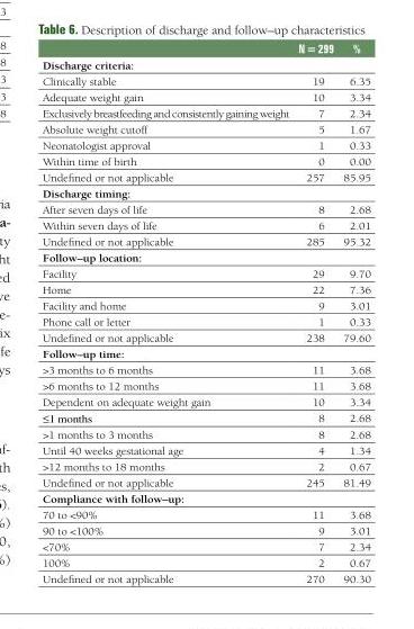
<table><thead><tr><td></td><td>N = 299</td><td>%</td></tr></thead><tbody><tr><td colspan="3">Discharge criteria:</td></tr><tr><td>Clinically stable</td><td>19</td><td>6.35</td></tr><tr><td>Adequate weight gain</td><td>10</td><td>3.34</td></tr><tr><td>Exclusively breastfeeding and consistently gaining weight</td><td>7</td><td>2.34</td></tr><tr><td>Absolute weight cutoff</td><td>5</td><td>1.67</td></tr><tr><td>Neonatologist approval</td><td>1</td><td>0.33</td></tr><tr><td>Within time of birth</td><td>0</td><td>0.00</td></tr><tr><td>Undefined or not applicable</td><td>257</td><td>85.95</td></tr><tr><td colspan="3">Discharge timing:</td></tr><tr><td>After seven days of life</td><td>8</td><td>2.68</td></tr><tr><td>Within seven days of life</td><td>6</td><td>2.01</td></tr><tr><td>Undefined or not applicable</td><td>285</td><td>95.32</td></tr><tr><td colspan="3">Follow–up location:</td></tr><tr><td>Facility</td><td>29</td><td>9.70</td></tr><tr><td>Home</td><td>22</td><td>7.36</td></tr><tr><td>Facility and home</td><td>9</td><td>3.01</td></tr><tr><td>Phone call or letter</td><td>1</td><td>0.33</td></tr><tr><td>Undefined or not applicable</td><td>238</td><td>79.60</td></tr><tr><td colspan="3">Follow–up time:</td></tr><tr><td>&gt;3 months to 6 months</td><td>11</td><td>3.68</td></tr><tr><td>&gt;6 months to 12 months</td><td>11</td><td>3.68</td></tr><tr><td>Dependent on adequate weight gain</td><td>10</td><td>3.34</td></tr><tr><td>≤1 months</td><td>8</td><td>2.68</td></tr><tr><td>&gt;1 months to 3 months</td><td>8</td><td>2.68</td></tr><tr><td>Until 40 weeks gestational age</td><td>4</td><td>1.34</td></tr><tr><td>&gt;12 months to 18 months</td><td>2</td><td>0.67</td></tr><tr><td>Undefined or not applicable</td><td>245</td><td>81.49</td></tr><tr><td colspan="3">Compliance with follow–up:</td></tr><tr><td>70 to &lt;90%</td><td>11</td><td>3.68</td></tr><tr><td>90 to &lt;100%</td><td>9</td><td>3.01</td></tr><tr><td>&lt;70%</td><td>7</td><td>2.34</td></tr><tr><td>100%</td><td>2</td><td>0.67</td></tr><tr><td>Undefined or not applicable</td><td>270</td><td>90.30</td></tr></tbody></table>